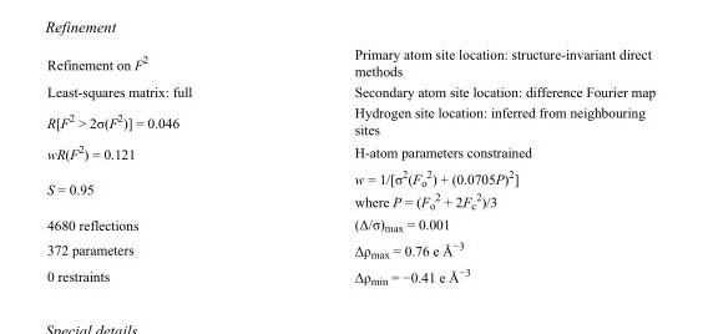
<table><tbody><tr><td>Refinement on F<sup>2</sup></td><td>Primary atom site location: structure-invariant direct methods</td></tr><tr><td>Least-squares matrix: full</td><td>Secondary atom site location: difference Fourier map</td></tr><tr><td>R[F<sup>2</sup> &gt; 2σ(F<sup>2</sup>)] = 0.046</td><td>Hydrogen site location: inferred from neighbouring sites</td></tr><tr><td>wR(F<sup>2</sup>) = 0.121</td><td>H-atom parameters constrained</td></tr><tr><td>S = 0.95</td><td>w = 1/[σ<sup>2</sup>(F<sub>o</sub> <sup>2</sup>) + (0.0705P)<sup>2</sup>] where P = (F<sub>o</sub> <sup>2</sup> + 2F<sub>c</sub> <sup>2</sup>)/3</td></tr><tr><td>4680 reflections</td><td>(Δ/σ)<sub>max</sub> = 0.001</td></tr><tr><td>372 parameters</td><td>Δρ<sub>max</sub> = 0.76 e Å<sup>−3</sup></td></tr><tr><td>0 restraints</td><td>Δρ<sub>min</sub> = −0.41 e Å<sup>−3</sup></td></tr></tbody></table>